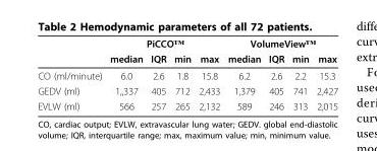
<table><thead><tr><td rowspan="2"></td><td colspan="4">PiCCO™</td><td colspan="4">VolumeView™</td></tr><tr><td>median</td><td>IQR</td><td>min</td><td>max</td><td>median</td><td>IQR</td><td>min</td><td>max</td></tr></thead><tbody><tr><td>CO (ml/minute)</td><td>6.0</td><td>2.6</td><td>1.8</td><td>15.8</td><td>6.2</td><td>2.6</td><td>2.2</td><td>15.3</td></tr><tr><td>GEDV (ml)</td><td>1,,337</td><td>405</td><td>712</td><td>2,433</td><td>1,379</td><td>405</td><td>741</td><td>2,427</td></tr><tr><td>EVLW (ml)</td><td>566</td><td>257</td><td>265</td><td>2,132</td><td>589</td><td>246</td><td>313</td><td>2,015</td></tr></tbody></table>